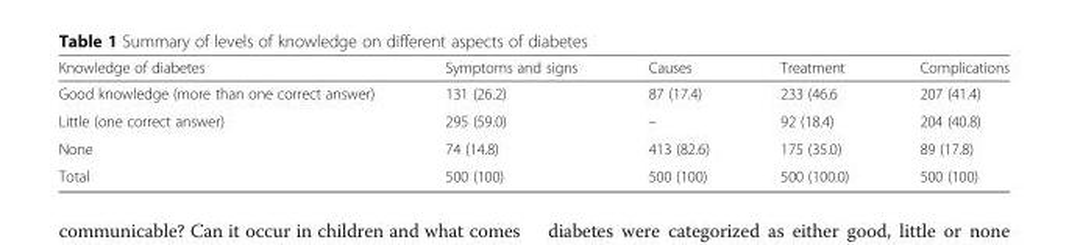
<table><thead><tr><td>Knowledge of diabetes</td><td>Symptoms and signs</td><td>Causes</td><td>Treatment</td><td>Complications</td></tr></thead><tbody><tr><td>Good knowledge (more than one correct answer)</td><td>131 (26.2)</td><td>87 (17.4)</td><td>233 (46.6</td><td>207 (41.4)</td></tr><tr><td>Little (one correct answer)</td><td>295 (59.0)</td><td>–</td><td>92 (18.4)</td><td>204 (40.8)</td></tr><tr><td>None</td><td>74 (14.8)</td><td>413 (82.6)</td><td>175 (35.0)</td><td>89 (17.8)</td></tr><tr><td>Total</td><td>500 (100)</td><td>500 (100)</td><td>500 (100.0)</td><td>500 (100)</td></tr></tbody></table>